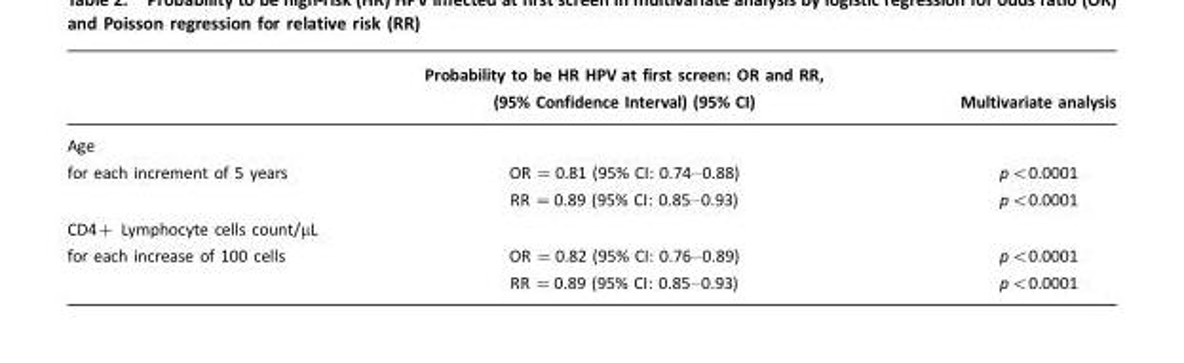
<table><thead><tr><td></td><td>Probability to be HR HPV at first screen: OR and RR, (95% Confidence Interval) (95% CI)</td><td>Multivariate analysis</td></tr></thead><tbody><tr><td colspan="3">Age</td></tr><tr><td rowspan="2">for each increment of 5 years</td><td>OR =0.81 (95% CI: 0.74–0.88)</td><td>p&lt;0.0001</td></tr><tr><td>RR =0.89 (95% CI: 0.85–0.93)</td><td>p&lt;0.0001</td></tr><tr><td colspan="3">CD4+ Lymphocyte cells count/µL</td></tr><tr><td rowspan="2">for each increase of 100 cells</td><td>OR =0.82 (95% CI: 0.76–0.89)</td><td>p&lt;0.0001</td></tr><tr><td>RR =0.89 (95% CI: 0.85–0.93)</td><td>p&lt;0.0001</td></tr></tbody></table>